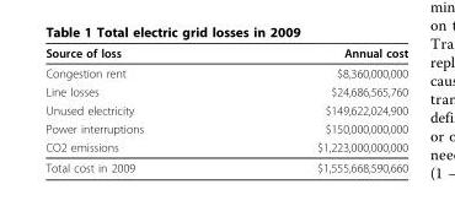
<table><thead><tr><td>Source of loss</td><td>Annual cost</td></tr></thead><tbody><tr><td>Congestion rent</td><td>$8,360,000,000</td></tr><tr><td>Line losses</td><td>$24,686,565,760</td></tr><tr><td>Unused electricity</td><td>$149,622,024,900</td></tr><tr><td>Power interruptions</td><td>$150,000,000,000</td></tr><tr><td>CO2 emissions</td><td>$1,223,000,000,000</td></tr><tr><td>Total cost in 2009</td><td>$1,555,668,590,660</td></tr></tbody></table>